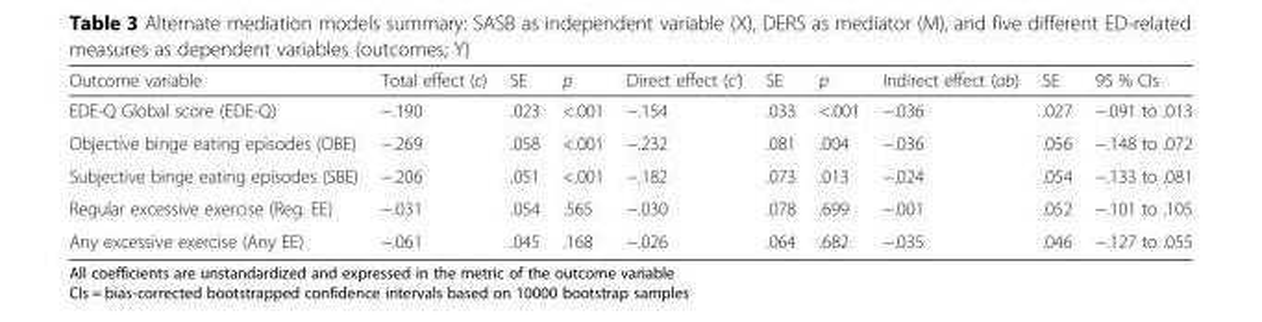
<table><thead><tr><td>Outcome variable</td><td>Total effect (c)</td><td>SE</td><td>p</td><td>Direct effect (c’)</td><td>SE</td><td>p</td><td>Indirect effect (ab)</td><td>SE</td><td>95 % CIs</td></tr></thead><tbody><tr><td>EDE-Q Global score (EDE-Q)</td><td>−.190</td><td>.023</td><td>&lt;.001</td><td>−.154</td><td>.033</td><td>&lt;.001</td><td>−.036</td><td>.027</td><td>−.091 to .013</td></tr><tr><td>Objective binge eating episodes (OBE)</td><td>−.269</td><td>.058</td><td>&lt;.001</td><td>−.232</td><td>.081</td><td>.004</td><td>−.036</td><td>.056</td><td>−.148 to .072</td></tr><tr><td>Subjective binge eating episodes (SBE)</td><td>−.206</td><td>.051</td><td>&lt;.001</td><td>−.182</td><td>.073</td><td>.013</td><td>−.024</td><td>.054</td><td>−.133 to .081</td></tr><tr><td>Regular excessive exercise (Reg. EE)</td><td>−.031</td><td>.054</td><td>.565</td><td>−.030</td><td>.078</td><td>.699</td><td>−.001</td><td>.052</td><td>−.101 to .105</td></tr><tr><td>Any excessive exercise (Any EE)</td><td>−.061</td><td>.045</td><td>.168</td><td>−.026</td><td>.064</td><td>.682</td><td>−.035</td><td>.046</td><td>−.127 to .055</td></tr></tbody></table>